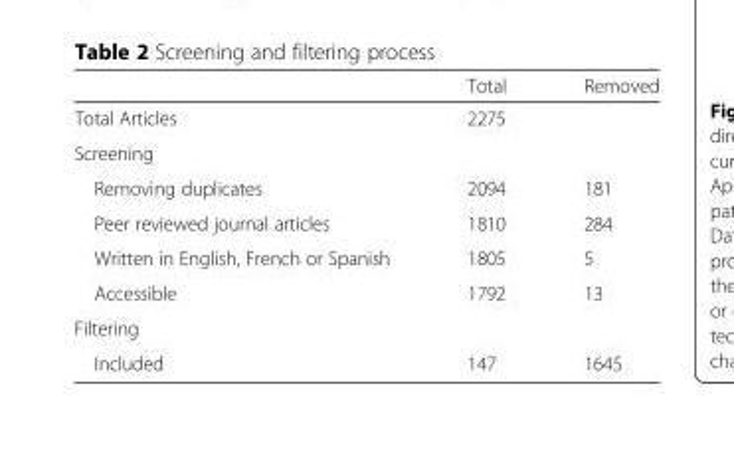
<table><thead><tr><td></td><td>Total</td><td>Removed</td></tr></thead><tbody><tr><td>Total Articles</td><td>2275</td><td></td></tr><tr><td colspan="3">Screening</td></tr><tr><td>Removing duplicates</td><td>2094</td><td>181</td></tr><tr><td>Peer reviewed journal articles</td><td>1810</td><td>284</td></tr><tr><td>Written in English, French or Spanish</td><td>1805</td><td>5</td></tr><tr><td>Accessible</td><td>1792</td><td>13</td></tr><tr><td colspan="3">Filtering</td></tr><tr><td>Included</td><td>147</td><td>1645</td></tr></tbody></table>